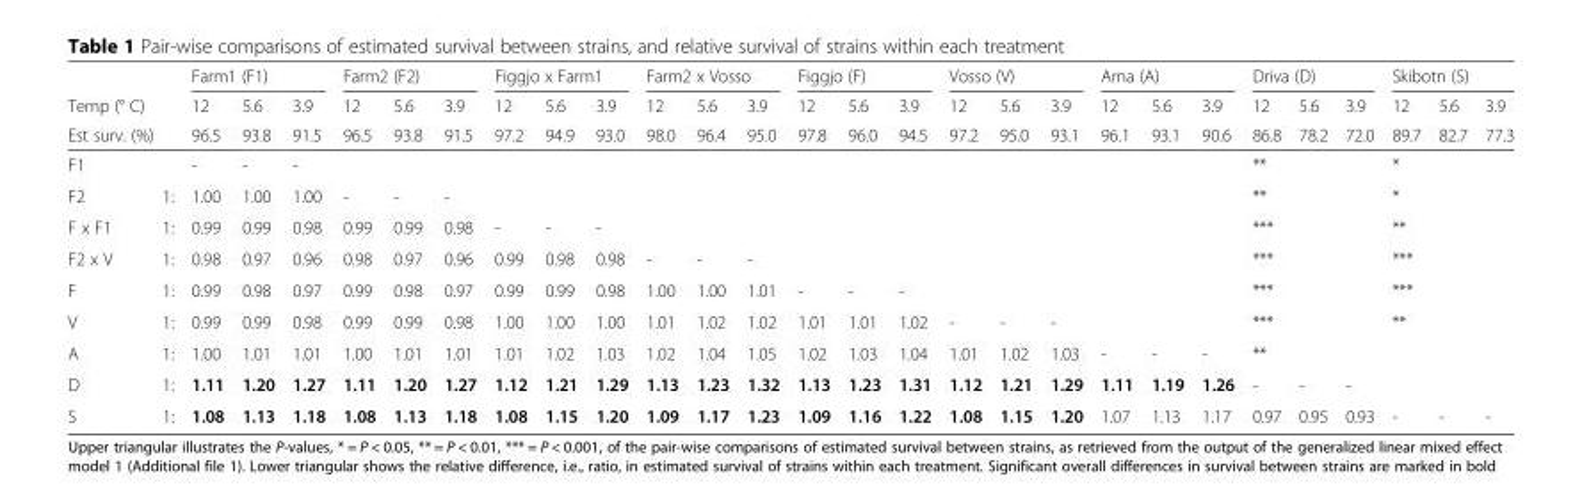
<table><thead><tr><td rowspan="2">Temp (° C)</td><td rowspan="2"></td><td colspan="3">Farm1 (F1)</td><td colspan="3">Farm2 (F2)</td><td colspan="3">Figgjo x Farm1</td><td colspan="3">Farm2 x Vosso</td><td colspan="3">Figgjo (F)</td><td colspan="3">Vosso (V)</td><td colspan="3">Arna (A)</td><td colspan="3">Driva (D)</td><td colspan="3">Skibotn (S)</td></tr><tr><td rowspan="2">12 96.5</td><td rowspan="2">5.6 93.8</td><td rowspan="2">3.9 91.5</td><td rowspan="2">12 96.5</td><td rowspan="2">5.6 93.8</td><td rowspan="2">3.9 91.5</td><td rowspan="2">12 97.2</td><td rowspan="2">5.6 94.9</td><td rowspan="2">3.9 93.0</td><td rowspan="2">12 98.0</td><td rowspan="2">5.6 96.4</td><td rowspan="2">3.9 95.0</td><td rowspan="2">12 97.8</td><td rowspan="2">5.6 96.0</td><td rowspan="2">3.9 94.5</td><td rowspan="2">12 97.2</td><td rowspan="2">5.6 95.0</td><td rowspan="2">3.9 93.1</td><td rowspan="2">12 96.1</td><td rowspan="2">5.6 93.1</td><td rowspan="2">3.9 90.6</td><td rowspan="2">12 86.8</td><td rowspan="2">5.6 78.2</td><td rowspan="2">3.9 72.0</td><td rowspan="2">12 89.7</td><td rowspan="2">5.6 82.7</td><td rowspan="2">3.9 77.3</td></tr><tr><td colspan="2">Est surv. (%)</td></tr></thead><tbody><tr><td>F1</td><td></td><td>-</td><td>-</td><td>-</td><td colspan="3"></td><td colspan="3"></td><td colspan="3"></td><td colspan="3"></td><td colspan="3"></td><td colspan="3"></td><td colspan="3">**</td><td colspan="3">*</td></tr><tr><td>F2</td><td>1:</td><td>1.00</td><td>1.00</td><td>1.00</td><td>-</td><td>-</td><td>-</td><td colspan="3"></td><td colspan="3"></td><td colspan="3"></td><td colspan="3"></td><td colspan="3"></td><td colspan="3">**</td><td colspan="3">*</td></tr><tr><td>F x F1</td><td>1:</td><td>0.99</td><td>0.99</td><td>0.98</td><td>0.99</td><td>0.99</td><td>0.98</td><td>-</td><td>-</td><td>-</td><td colspan="3"></td><td colspan="3"></td><td colspan="3"></td><td colspan="3"></td><td colspan="3">***</td><td colspan="3">**</td></tr><tr><td>F2 x V</td><td>1:</td><td>0.98</td><td>0.97</td><td>0.96</td><td>0.98</td><td>0.97</td><td>0.96</td><td>0.99</td><td>0.98</td><td>0.98</td><td>-</td><td>-</td><td>-</td><td colspan="3"></td><td colspan="3"></td><td colspan="3"></td><td colspan="3">***</td><td colspan="3">***</td></tr><tr><td>F</td><td>1:</td><td>0.99</td><td>0.98</td><td>0.97</td><td>0.99</td><td>0.98</td><td>0.97</td><td>0.99</td><td>0.99</td><td>0.98</td><td>1.00</td><td>1.00</td><td>1.01</td><td>-</td><td>-</td><td>-</td><td colspan="3"></td><td colspan="3"></td><td colspan="3">***</td><td colspan="3">***</td></tr><tr><td>V</td><td>1:</td><td>0.99</td><td>0.99</td><td>0.98</td><td>0.99</td><td>0.99</td><td>0.98</td><td>1.00</td><td>1.00</td><td>1.00</td><td>1.01</td><td>1.02</td><td>1.02</td><td>1.01</td><td>1.01</td><td>1.02</td><td>-</td><td>-</td><td>-</td><td colspan="3"></td><td colspan="3">***</td><td colspan="3">**</td></tr><tr><td>A</td><td>1:</td><td>1.00</td><td>1.01</td><td>1.01</td><td>1.00</td><td>1.01</td><td>1.01</td><td>1.01</td><td>1.02</td><td>1.03</td><td>1.02</td><td>1.04</td><td>1.05</td><td>1.02</td><td>1.03</td><td>1.04</td><td>1.01</td><td>1.02</td><td>1.03</td><td>-</td><td>-</td><td>-</td><td colspan="3">**</td><td colspan="3"></td></tr><tr><td>D</td><td>1:</td><td>1.11</td><td>1.20</td><td>1.27</td><td>1.11</td><td>1.20</td><td>1.27</td><td>1.12</td><td>1.21</td><td>1.29</td><td>1.13</td><td>1.23</td><td>1.32</td><td>1.13</td><td>1.23</td><td>1.31</td><td>1.12</td><td>1.21</td><td>1.29</td><td>1.11</td><td>1.19</td><td>1.26</td><td>-</td><td>-</td><td>-</td><td colspan="3"></td></tr><tr><td>S</td><td>1:</td><td>1.08</td><td>1.13</td><td>1.18</td><td>1.08</td><td>1.13</td><td>1.18</td><td>1.08</td><td>1.15</td><td>1.20</td><td>1.09</td><td>1.17</td><td>1.23</td><td>1.09</td><td>1.16</td><td>1.22</td><td>1.08</td><td>1.15</td><td>1.20</td><td>1.07</td><td>1.13</td><td>1.17</td><td>0.97</td><td>0.95</td><td>0.93</td><td>-</td><td>-</td><td>-</td></tr></tbody></table>